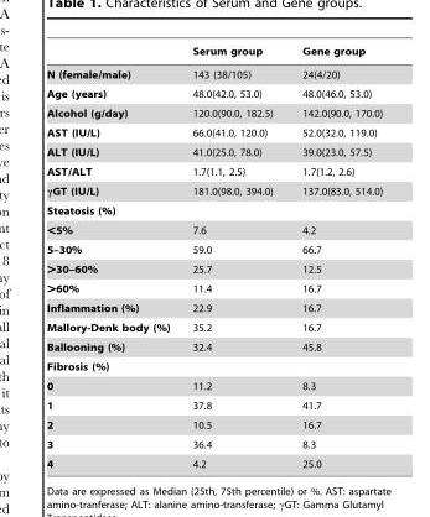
<table><thead><tr><td></td><td>Serum group</td><td>Gene group</td></tr></thead><tbody><tr><td>N (female/male)</td><td>143 (38/105)</td><td>24(4/20)</td></tr><tr><td>Age (years)</td><td>48.0(42.0, 53.0)</td><td>48.0(46.0, 53.0)</td></tr><tr><td>Alcohol (g/day)</td><td>120.0(90.0, 182.5)</td><td>142.0(90.0, 170.0)</td></tr><tr><td>AST (IU/L)</td><td>66.0(41.0, 120.0)</td><td>52.0(32.0, 119.0)</td></tr><tr><td>ALT (IU/L)</td><td>41.0(25.0, 78.0)</td><td>39.0(23.0, 57.5)</td></tr><tr><td>AST/ALT</td><td>1.7(1.1, 2.5)</td><td>1.7(1.2, 2.6)</td></tr><tr><td>γGT (IU/L)</td><td>181.0(98.0, 394.0)</td><td>137.0(83.0, 514.0)</td></tr><tr><td colspan="3">Steatosis (%)</td></tr><tr><td>&lt;5%</td><td>7.6</td><td>4.2</td></tr><tr><td>5–30%</td><td>59.0</td><td>66.7</td></tr><tr><td>&gt;30–60%</td><td>25.7</td><td>12.5</td></tr><tr><td>&gt;60%</td><td>11.4</td><td>16.7</td></tr><tr><td>Inflammation (%)</td><td>22.9</td><td>16.7</td></tr><tr><td>Mallory-Denk body (%)</td><td>35.2</td><td>16.7</td></tr><tr><td>Ballooning (%)</td><td>32.4</td><td>45.8</td></tr><tr><td colspan="3">Fibrosis (%)</td></tr><tr><td>0</td><td>11.2</td><td>8.3</td></tr><tr><td>1</td><td>37.8</td><td>41.7</td></tr><tr><td>2</td><td>10.5</td><td>16.7</td></tr><tr><td>3</td><td>36.4</td><td>8.3</td></tr><tr><td>4</td><td>4.2</td><td>25.0</td></tr></tbody></table>